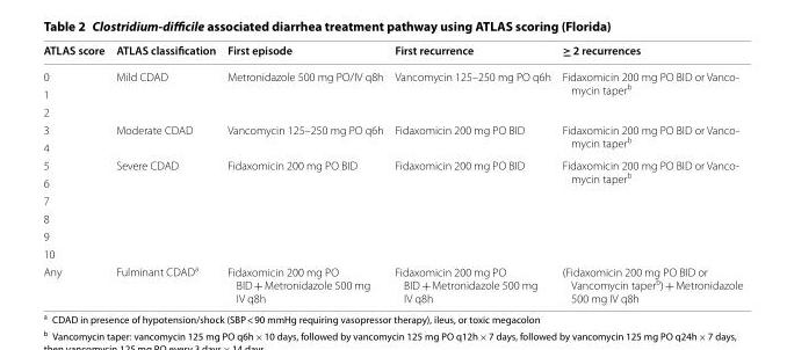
<table><thead><tr><td>ATLAS score</td><td>ATLAS classification</td><td>First episode</td><td>First recurrence</td><td>≥ 2 recurrences</td></tr></thead><tbody><tr><td>0</td><td rowspan="3">Mild CDAD</td><td rowspan="3">Metronidazole 500 mg PO/IV q8h</td><td rowspan="3">Vancomycin 125–250 mg PO q6h</td><td rowspan="3">Fidaxomicin 200 mg PO BID or Vanco- mycin taperb</td></tr><tr><td>1</td></tr><tr><td>2</td></tr><tr><td>3</td><td rowspan="2">Moderate CDAD</td><td rowspan="2">Vancomycin 125–250 mg PO q6h</td><td rowspan="2">Fidaxomicin 200 mg PO BID</td><td rowspan="2">Fidaxomicin 200 mg PO BID or Vanco- mycin taperb</td></tr><tr><td>4</td></tr><tr><td>5</td><td rowspan="6">Severe CDAD</td><td rowspan="6">Fidaxomicin 200 mg PO BID</td><td rowspan="6">Fidaxomicin 200 mg PO BID</td><td rowspan="6">Fidaxomicin 200 mg PO BID or Vanco- mycin taperb</td></tr><tr><td>6</td></tr><tr><td>7</td></tr><tr><td>8</td></tr><tr><td>9</td></tr><tr><td>10</td></tr><tr><td>Any</td><td>Fulminant CDAD<sup>a</sup></td><td>Fidaxomicin 200 mg PO BID + Metronidazole 500 mg IV q8h</td><td>Fidaxomicin 200 mg PO BID + Metronidazole 500 mg IV q8h</td><td>(Fidaxomicin 200 mg PO BID or Vancomycin taper<sup>b</sup>) + Metronidazole 500 mg IV q8h</td></tr></tbody></table>